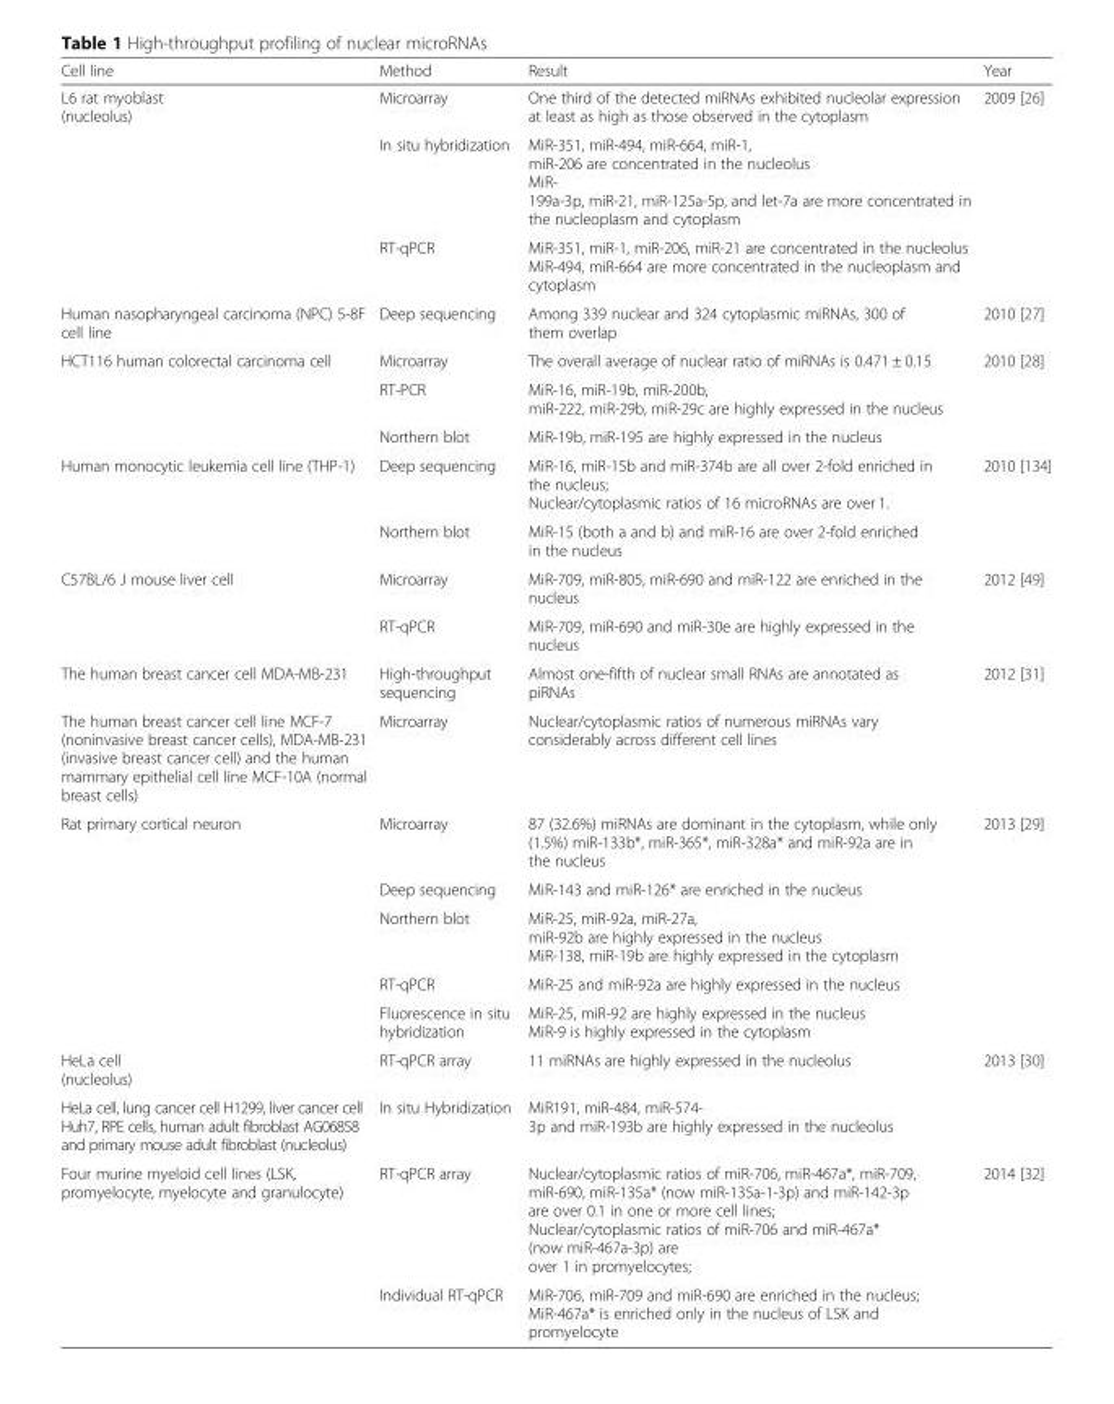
<table><thead><tr><td>Cell line</td><td>Method</td><td>Result</td><td>Year</td></tr></thead><tbody><tr><td rowspan="3">L6 rat myoblast (nucleolus)</td><td>Microarray</td><td>One third of the detected miRNAs exhibited nucleolar expression at least as high as those observed in the cytoplasm</td><td rowspan="3">2009 [26]</td></tr><tr><td>In situ hybridization</td><td>MiR-351, miR-494, miR-664, miR-1, miR-206 are concentrated in the nucleolus MiR- 199a-3p, miR-21, miR-125a-5p, and let-7a are more concentrated in the nucleoplasm and cytoplasm</td></tr><tr><td>RT-qPCR</td><td>MiR-351, miR-1, miR-206, miR-21 are concentrated in the nucleolus MiR-494, miR-664 are more concentrated in the nucleoplasm and cytoplasm</td></tr><tr><td>Human nasopharyngeal carcinoma (NPC) 5-8F cell line</td><td>Deep sequencing</td><td>Among 339 nuclear and 324 cytoplasmic miRNAs, 300 of them overlap</td><td>2010 [27]</td></tr><tr><td rowspan="3">HCT116 human colorectal carcinoma cell</td><td>Microarray</td><td>The overall average of nuclear ratio of miRNAs is 0.471 ± 0.15</td><td rowspan="3">2010 [28]</td></tr><tr><td>RT-PCR</td><td>MiR-16, miR-19b, miR-200b, miR-222, miR-29b, miR-29c are highly expressed in the nucleus</td></tr><tr><td>Northern blot</td><td>MiR-19b, miR-195 are highly expressed in the nucleus</td></tr><tr><td rowspan="2">Human monocytic leukemia cell line (THP-1)</td><td>Deep sequencing</td><td>MiR-16, miR-15b and miR-374b are all over 2-fold enriched in the nucleus; Nuclear/cytoplasmic ratios of 16 microRNAs are over 1.</td><td rowspan="2">2010 [134]</td></tr><tr><td>Northern blot</td><td>MiR-15 (both a and b) and miR-16 are over 2-fold enriched in the nucleus</td></tr><tr><td rowspan="2">C57BL/6 J mouse liver cell</td><td>Microarray</td><td>MiR-709, miR-805, miR-690 and miR-122 are enriched in the nucleus</td><td rowspan="2">2012 [49]</td></tr><tr><td>RT-qPCR</td><td>MiR-709, miR-690 and miR-30e are highly expressed in the nucleus</td></tr><tr><td>The human breast cancer cell MDA-MB-231</td><td>High-throughput sequencing</td><td>Almost one-fifth of nuclear small RNAs are annotated as piRNAs</td><td rowspan="2">2012 [31]</td></tr><tr><td>The human breast cancer cell line MCF-7 (noninvasive breast cancer cells), MDA-MB-231 (invasive breast cancer cell) and the human mammary epithelial cell line MCF-10A (normal breast cells)</td><td>Microarray</td><td>Nuclear/cytoplasmic ratios of numerous miRNAs vary considerably across different cell lines</td></tr><tr><td rowspan="5">Rat primary cortical neuron</td><td>Microarray</td><td>87 (32.6%) miRNAs are dominant in the cytoplasm, while only (1.5%) miR-133b*, miR-365*, miR-328a* and miR-92a are in the nucleus</td><td rowspan="5">2013 [29]</td></tr><tr><td>Deep sequencing</td><td>MiR-143 and miR-126* are enriched in the nucleus</td></tr><tr><td>Northern blot</td><td>MiR-25, miR-92a, miR-27a, miR-92b are highly expressed in the nucleus MiR-138, miR-19b are highly expressed in the cytoplasm</td></tr><tr><td>RT-qPCR</td><td>MiR-25 and miR-92a are highly expressed in the nucleus</td></tr><tr><td>Fluorescence in situ hybridization</td><td>MiR-25, miR-92 are highly expressed in the nucleus MiR-9 is highly expressed in the cytoplasm</td></tr><tr><td>HeLa cell (nucleolus)</td><td>RT-qPCR array</td><td>11 miRNAs are highly expressed in the nucleolus</td><td rowspan="2">2013 [30]</td></tr><tr><td>HeLa cell, lung cancer cell H1299, liver cancer cell Huh7, RPE cells, human adult fibroblast AG06858 and primary mouse adult fibroblast (nucleolus)</td><td>In situ Hybridization</td><td>MiR191, miR-484, miR-574- 3p and miR-193b are highly expressed in the nucleolus</td></tr><tr><td rowspan="2">Four murine myeloid cell lines (LSK, promyelocyte, myelocyte and granulocyte)</td><td>RT-qPCR array</td><td>Nuclear/cytoplasmic ratios of miR-706, miR-467a*, miR-709, miR-690, miR-135a* (now miR-135a-1-3p) and miR-142-3p are over 0.1 in one or more cell lines; Nuclear/cytoplasmic ratios of miR-706 and miR-467a* (now miR-467a-3p) are over 1 in promyelocytes;</td><td rowspan="2">2014 [32]</td></tr><tr><td>Individual RT-qPCR</td><td>MiR-706, miR-709 and miR-690 are enriched in the nucleus; MiR-467a* is enriched only in the nucleus of LSK and promyelocyte</td></tr></tbody></table>